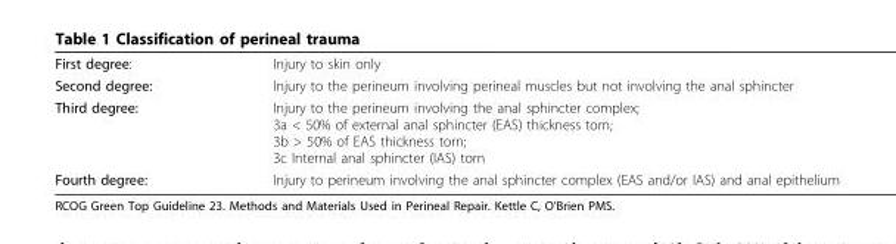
<table><tbody><tr><td>First degree:</td><td>Injury to skin only</td></tr><tr><td>Second degree:</td><td>Injury to the perineum involving perineal muscles but not involving the anal sphincter</td></tr><tr><td>Third degree:</td><td>Injury to the perineum involving the anal sphincter complex; 3a &lt; 50% of external anal sphincter (EAS) thickness torn; 3b &gt; 50% of EAS thickness torn; 3c Internal anal sphincter (IAS) torn</td></tr><tr><td>Fourth degree:</td><td>Injury to perineum involving the anal sphincter complex (EAS and/or IAS) and anal epithelium</td></tr></tbody></table>